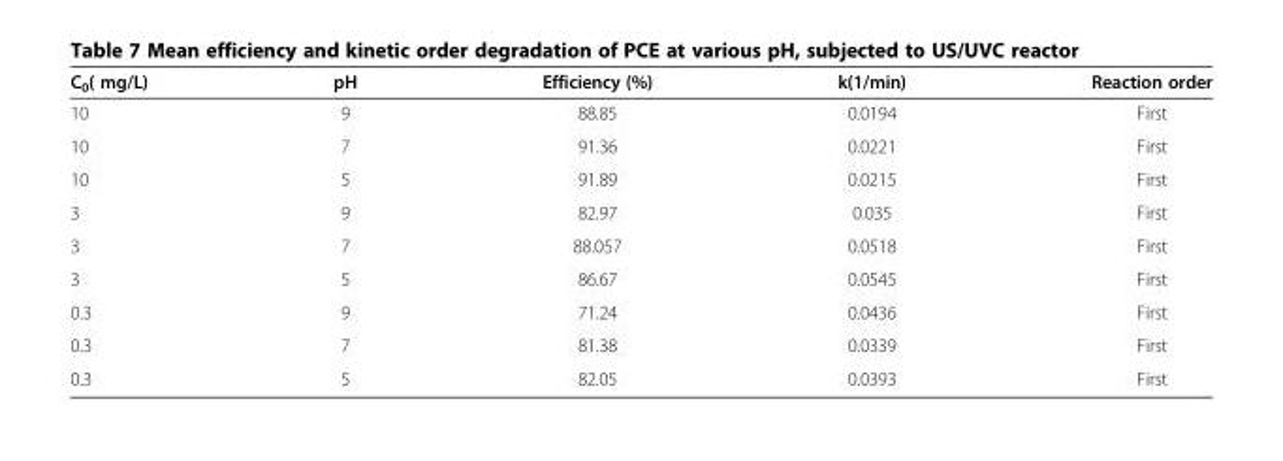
<table><thead><tr><td>C<sub>0</sub>( mg/L)</td><td>pH</td><td>Efficiency (%)</td><td>k(1/min)</td><td>Reaction order</td></tr></thead><tbody><tr><td>10</td><td>9</td><td>88.85</td><td>0.0194</td><td>First</td></tr><tr><td>10</td><td>7</td><td>91.36</td><td>0.0221</td><td>First</td></tr><tr><td>10</td><td>5</td><td>91.89</td><td>0.0215</td><td>First</td></tr><tr><td>3</td><td>9</td><td>82.97</td><td>0.035</td><td>First</td></tr><tr><td>3</td><td>7</td><td>88.057</td><td>0.0518</td><td>First</td></tr><tr><td>3</td><td>5</td><td>86.67</td><td>0.0545</td><td>First</td></tr><tr><td>0.3</td><td>9</td><td>71.24</td><td>0.0436</td><td>First</td></tr><tr><td>0.3</td><td>7</td><td>81.38</td><td>0.0339</td><td>First</td></tr><tr><td>0.3</td><td>5</td><td>82.05</td><td>0.0393</td><td>First</td></tr></tbody></table>